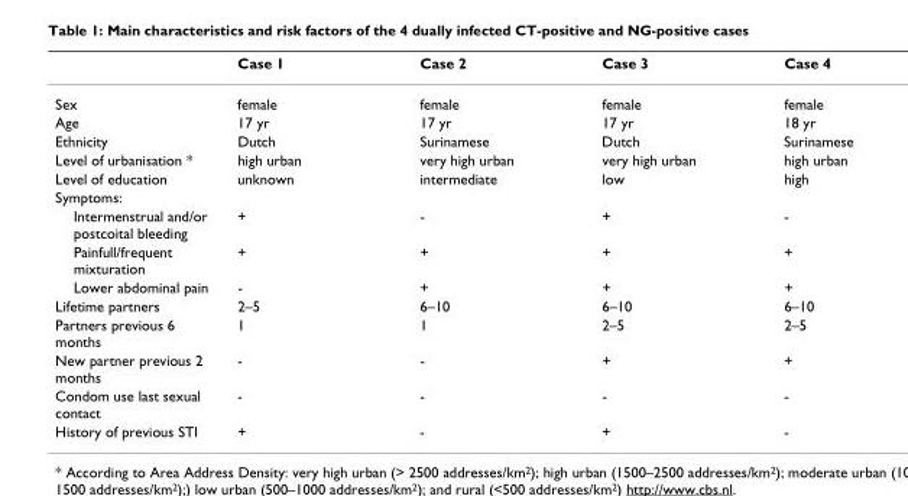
<table><thead><tr><td></td><td>Case 1</td><td>Case 2</td><td>Case 3</td><td>Case 4</td></tr></thead><tbody><tr><td>Sex</td><td>female</td><td>female</td><td>female</td><td>female</td></tr><tr><td>Age</td><td>17 yr</td><td>17 yr</td><td>17 yr</td><td>18 yr</td></tr><tr><td>Ethnicity</td><td>Dutch</td><td>Surinamese</td><td>Dutch</td><td>Surinamese</td></tr><tr><td>Level of urbanisation *</td><td>high urban</td><td>very high urban</td><td>very high urban</td><td>high urban</td></tr><tr><td>Level of education</td><td>unknown</td><td>intermediate</td><td>low</td><td>high</td></tr><tr><td colspan="5">Symptoms:</td></tr><tr><td>Intermenstrual and/or postcoital bleeding</td><td>+</td><td>-</td><td>+</td><td>-</td></tr><tr><td>Painfull/frequent mixturation</td><td>+</td><td>+</td><td>+</td><td>+</td></tr><tr><td>Lower abdominal pain</td><td>-</td><td>+</td><td>+</td><td>+</td></tr><tr><td>Lifetime partners</td><td>2–5</td><td>6–10</td><td>6–10</td><td>6–10</td></tr><tr><td>Partners previous 6 months</td><td>1</td><td>1</td><td>2–5</td><td>2–5</td></tr><tr><td>New partner previous 2 months</td><td>-</td><td>-</td><td>+</td><td>+</td></tr><tr><td>Condom use last sexual contact</td><td>-</td><td>-</td><td>-</td><td>-</td></tr><tr><td>History of previous STI</td><td>+</td><td>-</td><td>+</td><td>-</td></tr></tbody></table>